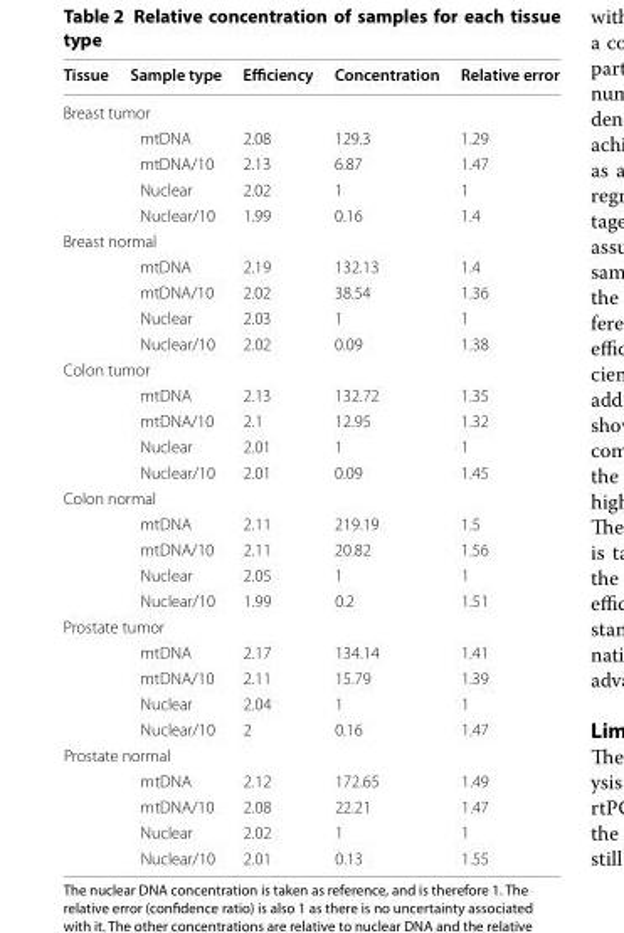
<table><thead><tr><td>Tissue</td><td>Sample type</td><td>Efficiency</td><td>Concentration</td><td>Relative error</td></tr></thead><tbody><tr><td colspan="5">Breast tumor</td></tr><tr><td></td><td>mtDNA</td><td>2.08</td><td>129.3</td><td>1.29</td></tr><tr><td></td><td>mtDNA/10</td><td>2.13</td><td>6.87</td><td>1.47</td></tr><tr><td></td><td>Nuclear</td><td>2.02</td><td>1</td><td>1</td></tr><tr><td></td><td>Nuclear/10</td><td>1.99</td><td>0.16</td><td>1.4</td></tr><tr><td colspan="5">Breast normal</td></tr><tr><td></td><td>mtDNA</td><td>2.19</td><td>132.13</td><td>1.4</td></tr><tr><td></td><td>mtDNA/10</td><td>2.02</td><td>38.54</td><td>1.36</td></tr><tr><td></td><td>Nuclear</td><td>2.03</td><td>1</td><td>1</td></tr><tr><td></td><td>Nuclear/10</td><td>2.02</td><td>0.09</td><td>1.38</td></tr><tr><td colspan="5">Colon tumor</td></tr><tr><td></td><td>mtDNA</td><td>2.13</td><td>132.72</td><td>1.35</td></tr><tr><td></td><td>mtDNA/10</td><td>2.1</td><td>12.95</td><td>1.32</td></tr><tr><td></td><td>Nuclear</td><td>2.01</td><td>1</td><td>1</td></tr><tr><td></td><td>Nuclear/10</td><td>2.01</td><td>0.09</td><td>1.45</td></tr><tr><td colspan="5">Colon normal</td></tr><tr><td></td><td>mtDNA</td><td>2.11</td><td>219.19</td><td>1.5</td></tr><tr><td></td><td>mtDNA/10</td><td>2.11</td><td>20.82</td><td>1.56</td></tr><tr><td></td><td>Nuclear</td><td>2.05</td><td>1</td><td>1</td></tr><tr><td></td><td>Nuclear/10</td><td>1.99</td><td>0.2</td><td>1.51</td></tr><tr><td colspan="5">Prostate tumor</td></tr><tr><td></td><td>mtDNA</td><td>2.17</td><td>134.14</td><td>1.41</td></tr><tr><td></td><td>mtDNA/10</td><td>2.11</td><td>15.79</td><td>1.39</td></tr><tr><td></td><td>Nuclear</td><td>2.04</td><td>1</td><td>1</td></tr><tr><td></td><td>Nuclear/10</td><td>2</td><td>0.16</td><td>1.47</td></tr><tr><td colspan="5">Prostate normal</td></tr><tr><td></td><td>mtDNA</td><td>2.12</td><td>172.65</td><td>1.49</td></tr><tr><td></td><td>mtDNA/10</td><td>2.08</td><td>22.21</td><td>1.47</td></tr><tr><td></td><td>Nuclear</td><td>2.02</td><td>1</td><td>1</td></tr><tr><td></td><td>Nuclear/10</td><td>2.01</td><td>0.13</td><td>1.55</td></tr></tbody></table>